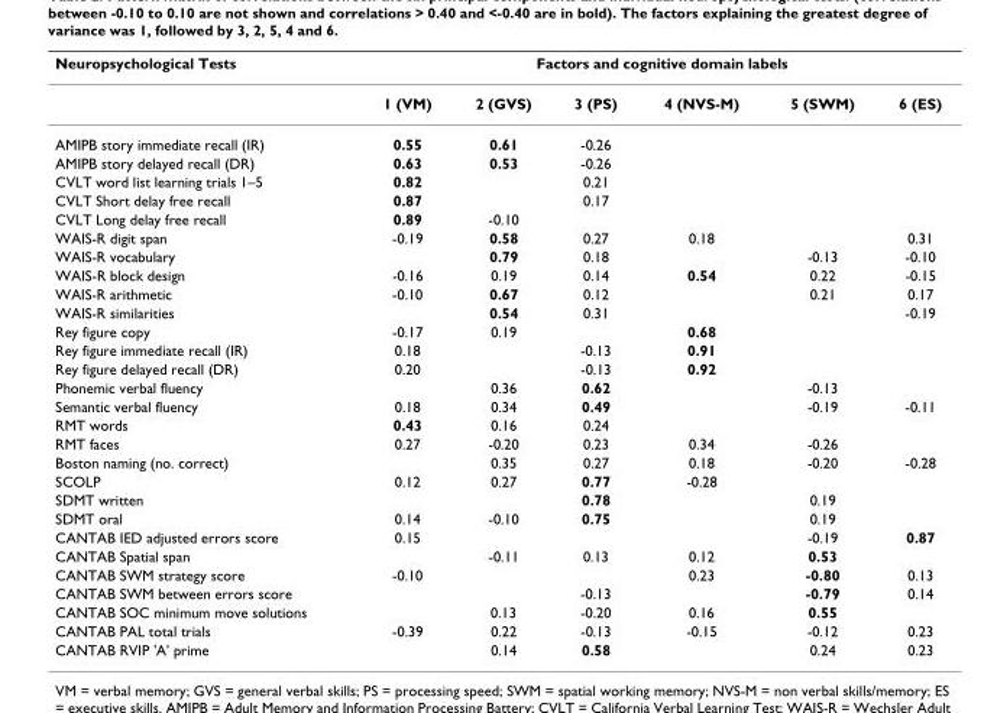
<table><thead><tr><td rowspan="2">Neuropsychological Tests</td><td colspan="6">Factors and cognitive domain labels</td></tr><tr><td>1 (VM)</td><td>2 (GVS)</td><td>3 (PS)</td><td>4 (NVS-M)</td><td>5 (SWM)</td><td>6 (ES)</td></tr></thead><tbody><tr><td>AMIPB story immediate recall (IR)</td><td>0.55</td><td>0.61</td><td>-0.26</td><td></td><td></td><td></td></tr><tr><td>AMIPB story delayed recall (DR)</td><td>0.63</td><td>0.53</td><td>-0.26</td><td></td><td></td><td></td></tr><tr><td>CVLT word list learning trials 1–5</td><td>0.82</td><td></td><td>0.21</td><td></td><td></td><td></td></tr><tr><td>CVLT Short delay free recall</td><td>0.87</td><td></td><td>0.17</td><td></td><td></td><td></td></tr><tr><td>CVLT Long delay free recall</td><td>0.89</td><td>-0.10</td><td></td><td></td><td></td><td></td></tr><tr><td>WAIS-R digit span</td><td>-0.19</td><td>0.58</td><td>0.27</td><td>0.18</td><td></td><td>0.31</td></tr><tr><td>WAIS-R vocabulary</td><td></td><td>0.79</td><td>0.18</td><td></td><td>-0.13</td><td>-0.10</td></tr><tr><td>WAIS-R block design</td><td>-0.16</td><td>0.19</td><td>0.14</td><td>0.54</td><td>0.22</td><td>-0.15</td></tr><tr><td>WAIS-R arithmetic</td><td>-0.10</td><td>0.67</td><td>0.12</td><td></td><td>0.21</td><td>0.17</td></tr><tr><td>WAIS-R similarities</td><td></td><td>0.54</td><td>0.31</td><td></td><td></td><td>-0.19</td></tr><tr><td>Rey figure copy</td><td>-0.17</td><td>0.19</td><td></td><td>0.68</td><td></td><td></td></tr><tr><td>Rey figure immediate recall (IR)</td><td>0.18</td><td></td><td>-0.13</td><td>0.91</td><td></td><td></td></tr><tr><td>Rey figure delayed recall (DR)</td><td>0.20</td><td></td><td>-0.13</td><td>0.92</td><td></td><td></td></tr><tr><td>Phonemic verbal fluency</td><td></td><td>0.36</td><td>0.62</td><td></td><td>-0.13</td><td></td></tr><tr><td>Semantic verbal fluency</td><td>0.18</td><td>0.34</td><td>0.49</td><td></td><td>-0.19</td><td>-0.11</td></tr><tr><td>RMT words</td><td>0.43</td><td>0.16</td><td>0.24</td><td></td><td></td><td></td></tr><tr><td>RMT faces</td><td>0.27</td><td>-0.20</td><td>0.23</td><td>0.34</td><td>-0.26</td><td></td></tr><tr><td>Boston naming (no. correct)</td><td></td><td>0.35</td><td>0.27</td><td>0.18</td><td>-0.20</td><td>-0.28</td></tr><tr><td>SCOLP</td><td>0.12</td><td>0.27</td><td>0.77</td><td>-0.28</td><td></td><td></td></tr><tr><td>SDMT written</td><td></td><td></td><td>0.78</td><td></td><td>0.19</td><td></td></tr><tr><td>SDMT oral</td><td>0.14</td><td>-0.10</td><td>0.75</td><td></td><td>0.19</td><td></td></tr><tr><td>CANTAB IED adjusted errors score</td><td>0.15</td><td></td><td></td><td></td><td>-0.19</td><td>0.87</td></tr><tr><td>CANTAB Spatial span</td><td></td><td>-0.11</td><td>0.13</td><td>0.12</td><td>0.53</td><td></td></tr><tr><td>CANTAB SWM strategy score</td><td>-0.10</td><td></td><td></td><td>0.23</td><td>-0.80</td><td>0.13</td></tr><tr><td>CANTAB SWM between errors score</td><td></td><td></td><td>-0.13</td><td></td><td>-0.79</td><td>0.14</td></tr><tr><td>CANTAB SOC minimum move solutions</td><td></td><td>0.13</td><td>-0.20</td><td>0.16</td><td>0.55</td><td></td></tr><tr><td>CANTAB PAL total trials</td><td>-0.39</td><td>0.22</td><td>-0.13</td><td>-0.15</td><td>-0.12</td><td>0.23</td></tr><tr><td>CANTAB RVIP &#x27;A&#x27; prime</td><td></td><td>0.14</td><td>0.58</td><td></td><td>0.24</td><td>0.23</td></tr></tbody></table>